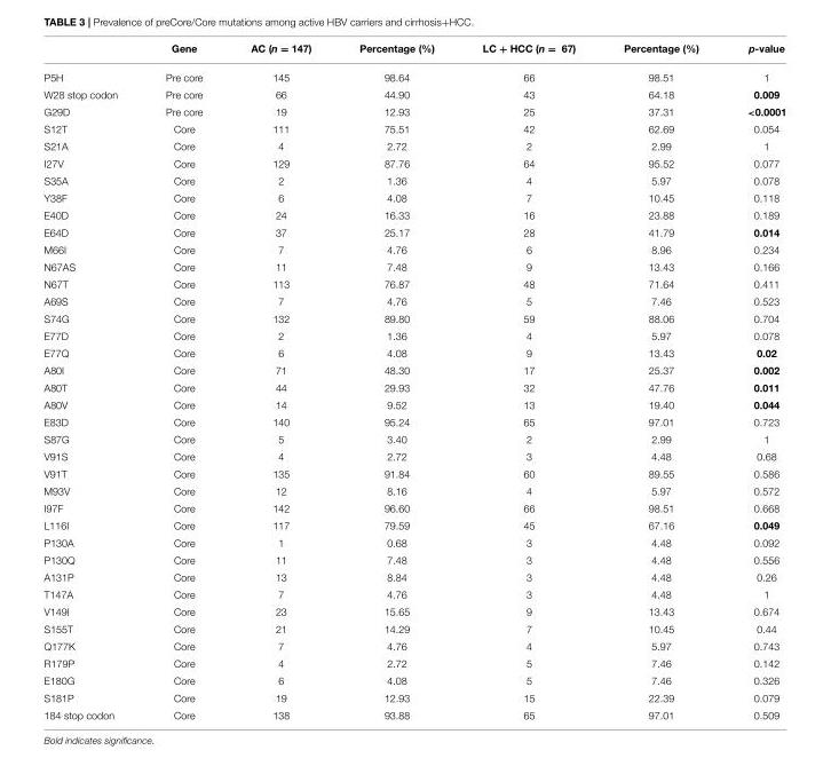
<table><thead><tr><td></td><td>Gene</td><td>AC (n = 147)</td><td>Percentage (%)</td><td>LC + HCC (n = 67)</td><td>Percentage (%)</td><td>p-value</td></tr></thead><tbody><tr><td>P5H</td><td>Pre core</td><td>145</td><td>98.64</td><td>66</td><td>98.51</td><td>1</td></tr><tr><td>W28 stop codon</td><td>Pre core</td><td>66</td><td>44.90</td><td>43</td><td>64.18</td><td>0.009</td></tr><tr><td>G29D</td><td>Pre core</td><td>19</td><td>12.93</td><td>25</td><td>37.31</td><td>&lt;0.0001</td></tr><tr><td>S12T</td><td>Core</td><td>111</td><td>75.51</td><td>42</td><td>62.69</td><td>0.054</td></tr><tr><td>S21A</td><td>Core</td><td>4</td><td>2.72</td><td>2</td><td>2.99</td><td>1</td></tr><tr><td>I27V</td><td>Core</td><td>129</td><td>87.76</td><td>64</td><td>95.52</td><td>0.077</td></tr><tr><td>S35A</td><td>Core</td><td>2</td><td>1.36</td><td>4</td><td>5.97</td><td>0.078</td></tr><tr><td>Y38F</td><td>Core</td><td>6</td><td>4.08</td><td>7</td><td>10.45</td><td>0.118</td></tr><tr><td>E40D</td><td>Core</td><td>24</td><td>16.33</td><td>16</td><td>23.88</td><td>0.189</td></tr><tr><td>E64D</td><td>Core</td><td>37</td><td>25.17</td><td>28</td><td>41.79</td><td>0.014</td></tr><tr><td>M66I</td><td>Core</td><td>7</td><td>4.76</td><td>6</td><td>8.96</td><td>0.234</td></tr><tr><td>N67AS</td><td>Core</td><td>11</td><td>7.48</td><td>9</td><td>13.43</td><td>0.166</td></tr><tr><td>N67T</td><td>Core</td><td>113</td><td>76.87</td><td>48</td><td>71.64</td><td>0.411</td></tr><tr><td>A69S</td><td>Core</td><td>7</td><td>4.76</td><td>5</td><td>7.46</td><td>0.523</td></tr><tr><td>S74G</td><td>Core</td><td>132</td><td>89.80</td><td>59</td><td>88.06</td><td>0.704</td></tr><tr><td>E77D</td><td>Core</td><td>2</td><td>1.36</td><td>4</td><td>5.97</td><td>0.078</td></tr><tr><td>E77Q</td><td>Core</td><td>6</td><td>4.08</td><td>9</td><td>13.43</td><td>0.02</td></tr><tr><td>A80I</td><td>Core</td><td>71</td><td>48.30</td><td>17</td><td>25.37</td><td>0.002</td></tr><tr><td>A80T</td><td>Core</td><td>44</td><td>29.93</td><td>32</td><td>47.76</td><td>0.011</td></tr><tr><td>A80V</td><td>Core</td><td>14</td><td>9.52</td><td>13</td><td>19.40</td><td>0.044</td></tr><tr><td>E83D</td><td>Core</td><td>140</td><td>95.24</td><td>65</td><td>97.01</td><td>0.723</td></tr><tr><td>S87G</td><td>Core</td><td>5</td><td>3.40</td><td>2</td><td>2.99</td><td>1</td></tr><tr><td>V91S</td><td>Core</td><td>4</td><td>2.72</td><td>3</td><td>4.48</td><td>0.68</td></tr><tr><td>V91T</td><td>Core</td><td>135</td><td>91.84</td><td>60</td><td>89.55</td><td>0.586</td></tr><tr><td>M93V</td><td>Core</td><td>12</td><td>8.16</td><td>4</td><td>5.97</td><td>0.572</td></tr><tr><td>I97F</td><td>Core</td><td>142</td><td>96.60</td><td>66</td><td>98.51</td><td>0.668</td></tr><tr><td>L116I</td><td>Core</td><td>117</td><td>79.59</td><td>45</td><td>67.16</td><td>0.049</td></tr><tr><td>P130A</td><td>Core</td><td>1</td><td>0.68</td><td>3</td><td>4.48</td><td>0.092</td></tr><tr><td>P130Q</td><td>Core</td><td>11</td><td>7.48</td><td>3</td><td>4.48</td><td>0.556</td></tr><tr><td>A131P</td><td>Core</td><td>13</td><td>8.84</td><td>3</td><td>4.48</td><td>0.26</td></tr><tr><td>T147A</td><td>Core</td><td>7</td><td>4.76</td><td>3</td><td>4.48</td><td>1</td></tr><tr><td>V149I</td><td>Core</td><td>23</td><td>15.65</td><td>9</td><td>13.43</td><td>0.674</td></tr><tr><td>S155T</td><td>Core</td><td>21</td><td>14.29</td><td>7</td><td>10.45</td><td>0.44</td></tr><tr><td>Q177K</td><td>Core</td><td>7</td><td>4.76</td><td>4</td><td>5.97</td><td>0.743</td></tr><tr><td>R179P</td><td>Core</td><td>4</td><td>2.72</td><td>5</td><td>7.46</td><td>0.142</td></tr><tr><td>E180G</td><td>Core</td><td>6</td><td>4.08</td><td>5</td><td>7.46</td><td>0.326</td></tr><tr><td>S181P</td><td>Core</td><td>19</td><td>12.93</td><td>15</td><td>22.39</td><td>0.079</td></tr><tr><td>184 stop codon</td><td>Core</td><td>138</td><td>93.88</td><td>65</td><td>97.01</td><td>0.509</td></tr></tbody></table>